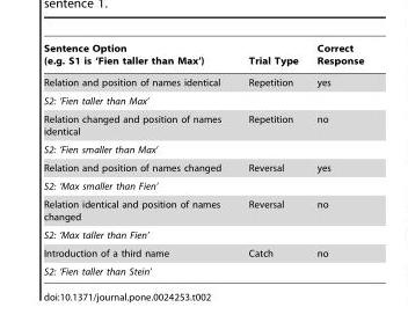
<table><thead><tr><td>Sentence Option (e.g. S1 is ‘Fien taller than Max’)</td><td>Trial Type</td><td>Correct Response</td></tr></thead><tbody><tr><td>Relation and position of names identical</td><td>Repetition</td><td>yes</td></tr><tr><td colspan="3">S2: ‘Fien taller than Max’</td></tr><tr><td>Relation changed and position of names identical</td><td>Repetition</td><td>no</td></tr><tr><td colspan="3">S2: ‘Fien smaller than Max’</td></tr><tr><td>Relation and position of names changed</td><td>Reversal</td><td>yes</td></tr><tr><td colspan="3">S2: ‘Max smaller than Fien’</td></tr><tr><td>Relation identical and position of names changed</td><td>Reversal</td><td>no</td></tr><tr><td colspan="3">S2: ‘Max taller than Fien’</td></tr><tr><td>Introduction of a third name</td><td>Catch</td><td>no</td></tr><tr><td>S2: ‘Fien taller than Stein’</td><td></td><td></td></tr></tbody></table>